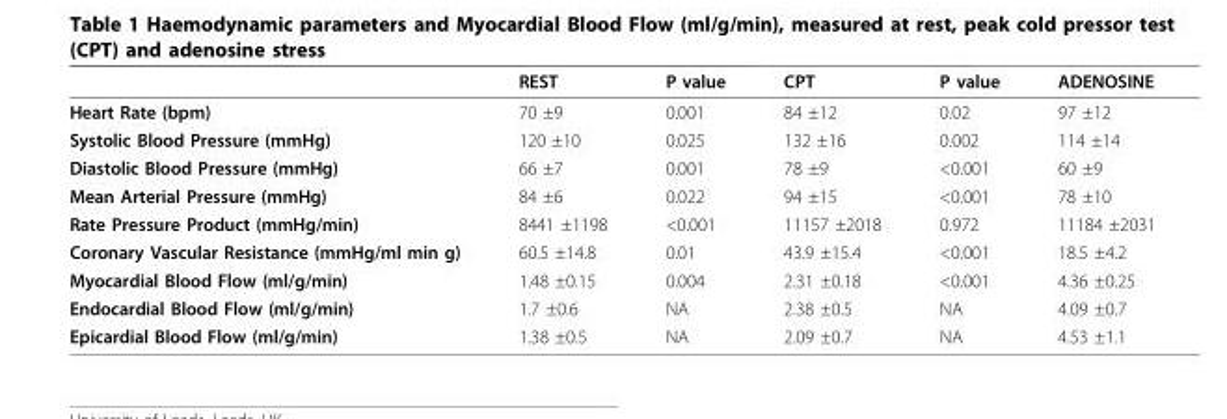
<table><thead><tr><td></td><td>REST</td><td>P value</td><td>CPT</td><td>P value</td><td>ADENOSINE</td></tr></thead><tbody><tr><td>Heart Rate (bpm)</td><td>70 ±9</td><td>0.001</td><td>84 ±12</td><td>0.02</td><td>97 ±12</td></tr><tr><td>Systolic Blood Pressure (mmHg)</td><td>120 ±10</td><td>0.025</td><td>132 ±16</td><td>0.002</td><td>114 ±14</td></tr><tr><td>Diastolic Blood Pressure (mmHg)</td><td>66 ±7</td><td>0.001</td><td>78 ±9</td><td>&lt;0.001</td><td>60 ±9</td></tr><tr><td>Mean Arterial Pressure (mmHg)</td><td>84 ±6</td><td>0.022</td><td>94 ±15</td><td>&lt;0.001</td><td>78 ±10</td></tr><tr><td>Rate Pressure Product (mmHg/min)</td><td>8441 ±1198</td><td>&lt;0.001</td><td>11157 ±2018</td><td>0.972</td><td>11184 ±2031</td></tr><tr><td>Coronary Vascular Resistance (mmHg/ml min g)</td><td>60.5 ±14.8</td><td>0.01</td><td>43.9 ±15.4</td><td>&lt;0.001</td><td>18.5 ±4.2</td></tr><tr><td>Myocardial Blood Flow (ml/g/min)</td><td>1.48 ±0.15</td><td>0.004</td><td>2.31 ±0.18</td><td>&lt;0.001</td><td>4.36 ±0.25</td></tr><tr><td>Endocardial Blood Flow (ml/g/min)</td><td>1.7 ±0.6</td><td>NA</td><td>2.38 ±0.5</td><td>NA</td><td>4.09 ±0.7</td></tr><tr><td>Epicardial Blood Flow (ml/g/min)</td><td>1.38 ±0.5</td><td>NA</td><td>2.09 ±0.7</td><td>NA</td><td>4.53 ±1.1</td></tr></tbody></table>